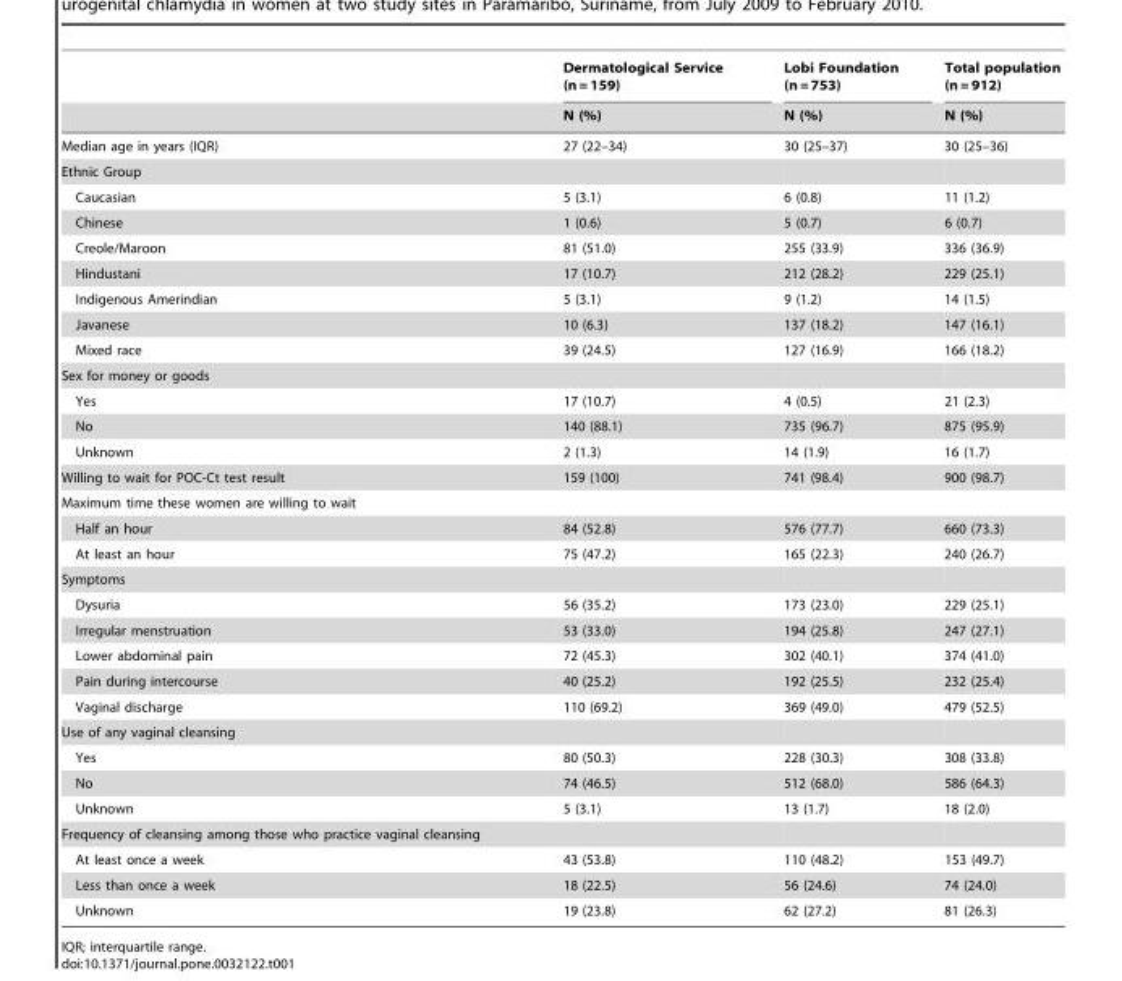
<table><thead><tr><td rowspan="2"></td><td rowspan="2">Dermatological Service (n = 159) N (%)</td><td rowspan="2">Lobi Foundation (n = 753) N (%)</td><td rowspan="2">Total population (n = 912) N (%)</td></tr><tr></tr></thead><tbody><tr><td>Median age in years (IQR)</td><td>27 (22–34)</td><td>30 (25–37)</td><td>30 (25–36)</td></tr><tr><td colspan="4">Ethnic Group</td></tr><tr><td>Caucasian</td><td>5 (3.1)</td><td>6 (0.8)</td><td>11 (1.2)</td></tr><tr><td>Chinese</td><td>1 (0.6)</td><td>5 (0.7)</td><td>6 (0.7)</td></tr><tr><td>Creole/Maroon</td><td>81 (51.0)</td><td>255 (33.9)</td><td>336 (36.9)</td></tr><tr><td>Hindustani</td><td>17 (10.7)</td><td>212 (28.2)</td><td>229 (25.1)</td></tr><tr><td>Indigenous Amerindian</td><td>5 (3.1)</td><td>9 (1.2)</td><td>14 (1.5)</td></tr><tr><td>Javanese</td><td>10 (6.3)</td><td>137 (18.2)</td><td>147 (16.1)</td></tr><tr><td>Mixed race</td><td>39 (24.5)</td><td>127 (16.9)</td><td>166 (18.2)</td></tr><tr><td colspan="4">Sex for money or goods</td></tr><tr><td>Yes</td><td>17 (10.7)</td><td>4 (0.5)</td><td>21 (2.3)</td></tr><tr><td>No</td><td>140 (88.1)</td><td>735 (96.7)</td><td>875 (95.9)</td></tr><tr><td>Unknown</td><td>2 (1.3)</td><td>14 (1.9)</td><td>16 (1.7)</td></tr><tr><td>Willing to wait for POC-Ct test result</td><td>159 (100)</td><td>741 (98.4)</td><td>900 (98.7)</td></tr><tr><td colspan="4">Maximum time these women are willing to wait</td></tr><tr><td>Half an hour</td><td>84 (52.8)</td><td>576 (77.7)</td><td>660 (73.3)</td></tr><tr><td>At least an hour</td><td>75 (47.2)</td><td>165 (22.3)</td><td>240 (26.7)</td></tr><tr><td colspan="4">Symptoms</td></tr><tr><td>Dysuria</td><td>56 (35.2)</td><td>173 (23.0)</td><td>229 (25.1)</td></tr><tr><td>Irregular menstruation</td><td>53 (33.0)</td><td>194 (25.8)</td><td>247 (27.1)</td></tr><tr><td>Lower abdominal pain</td><td>72 (45.3)</td><td>302 (40.1)</td><td>374 (41.0)</td></tr><tr><td>Pain during intercourse</td><td>40 (25.2)</td><td>192 (25.5)</td><td>232 (25.4)</td></tr><tr><td>Vaginal discharge</td><td>110 (69.2)</td><td>369 (49.0)</td><td>479 (52.5)</td></tr><tr><td colspan="4">Use of any vaginal cleansing</td></tr><tr><td>Yes</td><td>80 (50.3)</td><td>228 (30.3)</td><td>308 (33.8)</td></tr><tr><td>No</td><td>74 (46.5)</td><td>512 (68.0)</td><td>586 (64.3)</td></tr><tr><td>Unknown</td><td>5 (3.1)</td><td>13 (1.7)</td><td>18 (2.0)</td></tr><tr><td colspan="4">Frequency of cleansing among those who practice vaginal cleansing</td></tr><tr><td>At least once a week</td><td>43 (53.8)</td><td>110 (48.2)</td><td>153 (49.7)</td></tr><tr><td>Less than once a week</td><td>18 (22.5)</td><td>56 (24.6)</td><td>74 (24.0)</td></tr><tr><td>Unknown</td><td>19 (23.8)</td><td>62 (27.2)</td><td>81 (26.3)</td></tr></tbody></table>